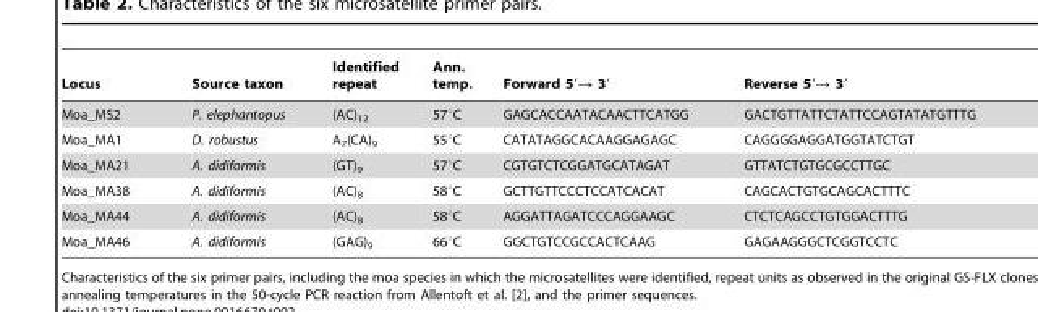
<table><thead><tr><td>Locus</td><td>Source taxon</td><td>Identified repeat</td><td>Ann. temp.</td><td>Forward 5′→ 3′</td><td>Reverse 5′→ 3′</td></tr></thead><tbody><tr><td>Moa_MS2</td><td>P. elephantopus</td><td>(AC)<sub>12</sub></td><td>57°C</td><td>GAGCACCAATACAACTTCATGG</td><td>GACTGTTATTCTATTCCAGTATATGTTTG</td></tr><tr><td>Moa_MA1</td><td>D. robustus</td><td>A<sub>7</sub>(CA)<sub>9</sub></td><td>55°C</td><td>CATATAGGCACAAGGAGAGC</td><td>CAGGGGAGGATGGTATCTGT</td></tr><tr><td>Moa_MA21</td><td>A. didiformis</td><td>(GT)<sub>9</sub></td><td>57°C</td><td>CGTGTCTCGGATGCATAGAT</td><td>GTTATCTGTGCGCCTTGC</td></tr><tr><td>Moa_MA38</td><td>A. didiformis</td><td>(AC)<sub>8</sub></td><td>58°C</td><td>GCTTGTTCCCTCCATCACAT</td><td>CAGCACTGTGCAGCACTTTC</td></tr><tr><td>Moa_MA44</td><td>A. didiformis</td><td>(AC)<sub>8</sub></td><td>58°C</td><td>AGGATTAGATCCCAGGAAGC</td><td>CTCTCAGCCTGTGGACTTTG</td></tr><tr><td>Moa_MA46</td><td>A. didiformis</td><td>(GAG)<sub>9</sub></td><td>66°C</td><td>GGCTGTCCGCCACTCAAG</td><td>GAGAAGGGCTCGGTCCTC</td></tr></tbody></table>